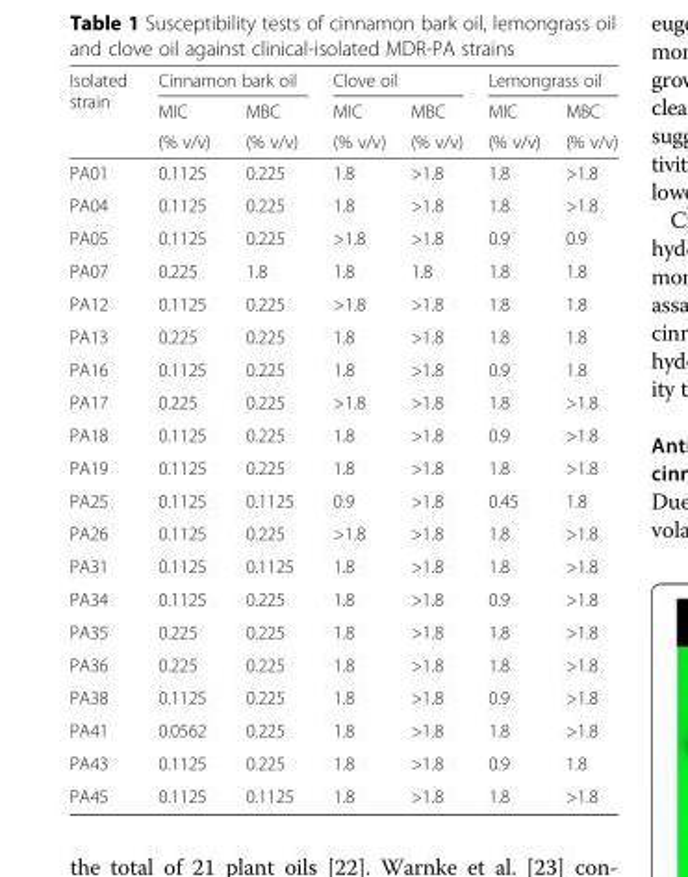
<table><thead><tr><td rowspan="3">Isolated strain</td><td colspan="2">Cinnamon bark oil</td><td colspan="2">Clove oil</td><td colspan="2">Lemongrass oil</td></tr><tr><td rowspan="2">MIC (% v/v)</td><td rowspan="2">MBC (% v/v)</td><td rowspan="2">MIC (% v/v)</td><td rowspan="2">MBC (% v/v)</td><td rowspan="2">MIC (% v/v)</td><td rowspan="2">MBC (% v/v)</td></tr><tr></tr></thead><tbody><tr><td>PA01</td><td>0.1125</td><td>0.225</td><td>1.8</td><td>&gt;1.8</td><td>1.8</td><td>&gt;1.8</td></tr><tr><td>PA04</td><td>0.1125</td><td>0.225</td><td>1.8</td><td>&gt;1.8</td><td>1.8</td><td>&gt;1.8</td></tr><tr><td>PA05</td><td>0.1125</td><td>0.225</td><td>&gt;1.8</td><td>&gt;1.8</td><td>0.9</td><td>0.9</td></tr><tr><td>PA07</td><td>0.225</td><td>1.8</td><td>1.8</td><td>1.8</td><td>1.8</td><td>1.8</td></tr><tr><td>PA12</td><td>0.1125</td><td>0.225</td><td>&gt;1.8</td><td>&gt;1.8</td><td>1.8</td><td>1.8</td></tr><tr><td>PA13</td><td>0.225</td><td>0.225</td><td>1.8</td><td>&gt;1.8</td><td>1.8</td><td>1.8</td></tr><tr><td>PA16</td><td>0.1125</td><td>0.225</td><td>1.8</td><td>&gt;1.8</td><td>0.9</td><td>1.8</td></tr><tr><td>PA17</td><td>0.225</td><td>0.225</td><td>&gt;1.8</td><td>&gt;1.8</td><td>1.8</td><td>&gt;1.8</td></tr><tr><td>PA18</td><td>0.1125</td><td>0.225</td><td>1.8</td><td>&gt;1.8</td><td>0.9</td><td>&gt;1.8</td></tr><tr><td>PA19</td><td>0.1125</td><td>0.225</td><td>1.8</td><td>&gt;1.8</td><td>1.8</td><td>&gt;1.8</td></tr><tr><td>PA25</td><td>0.1125</td><td>0.1125</td><td>0.9</td><td>&gt;1.8</td><td>0.45</td><td>1.8</td></tr><tr><td>PA26</td><td>0.1125</td><td>0.225</td><td>&gt;1.8</td><td>&gt;1.8</td><td>1.8</td><td>&gt;1.8</td></tr><tr><td>PA31</td><td>0.1125</td><td>0.1125</td><td>1.8</td><td>&gt;1.8</td><td>1.8</td><td>&gt;1.8</td></tr><tr><td>PA34</td><td>0.1125</td><td>0.225</td><td>1.8</td><td>&gt;1.8</td><td>0.9</td><td>&gt;1.8</td></tr><tr><td>PA35</td><td>0.225</td><td>0.225</td><td>1.8</td><td>&gt;1.8</td><td>1.8</td><td>&gt;1.8</td></tr><tr><td>PA36</td><td>0.225</td><td>0.225</td><td>1.8</td><td>&gt;1.8</td><td>1.8</td><td>&gt;1.8</td></tr><tr><td>PA38</td><td>0.1125</td><td>0.225</td><td>1.8</td><td>&gt;1.8</td><td>0.9</td><td>&gt;1.8</td></tr><tr><td>PA41</td><td>0.0562</td><td>0.225</td><td>1.8</td><td>&gt;1.8</td><td>1.8</td><td>&gt;1.8</td></tr><tr><td>PA43</td><td>0.1125</td><td>0.225</td><td>1.8</td><td>&gt;1.8</td><td>0.9</td><td>1.8</td></tr><tr><td>PA45</td><td>0.1125</td><td>0.1125</td><td>1.8</td><td>&gt;1.8</td><td>1.8</td><td>&gt;1.8</td></tr></tbody></table>